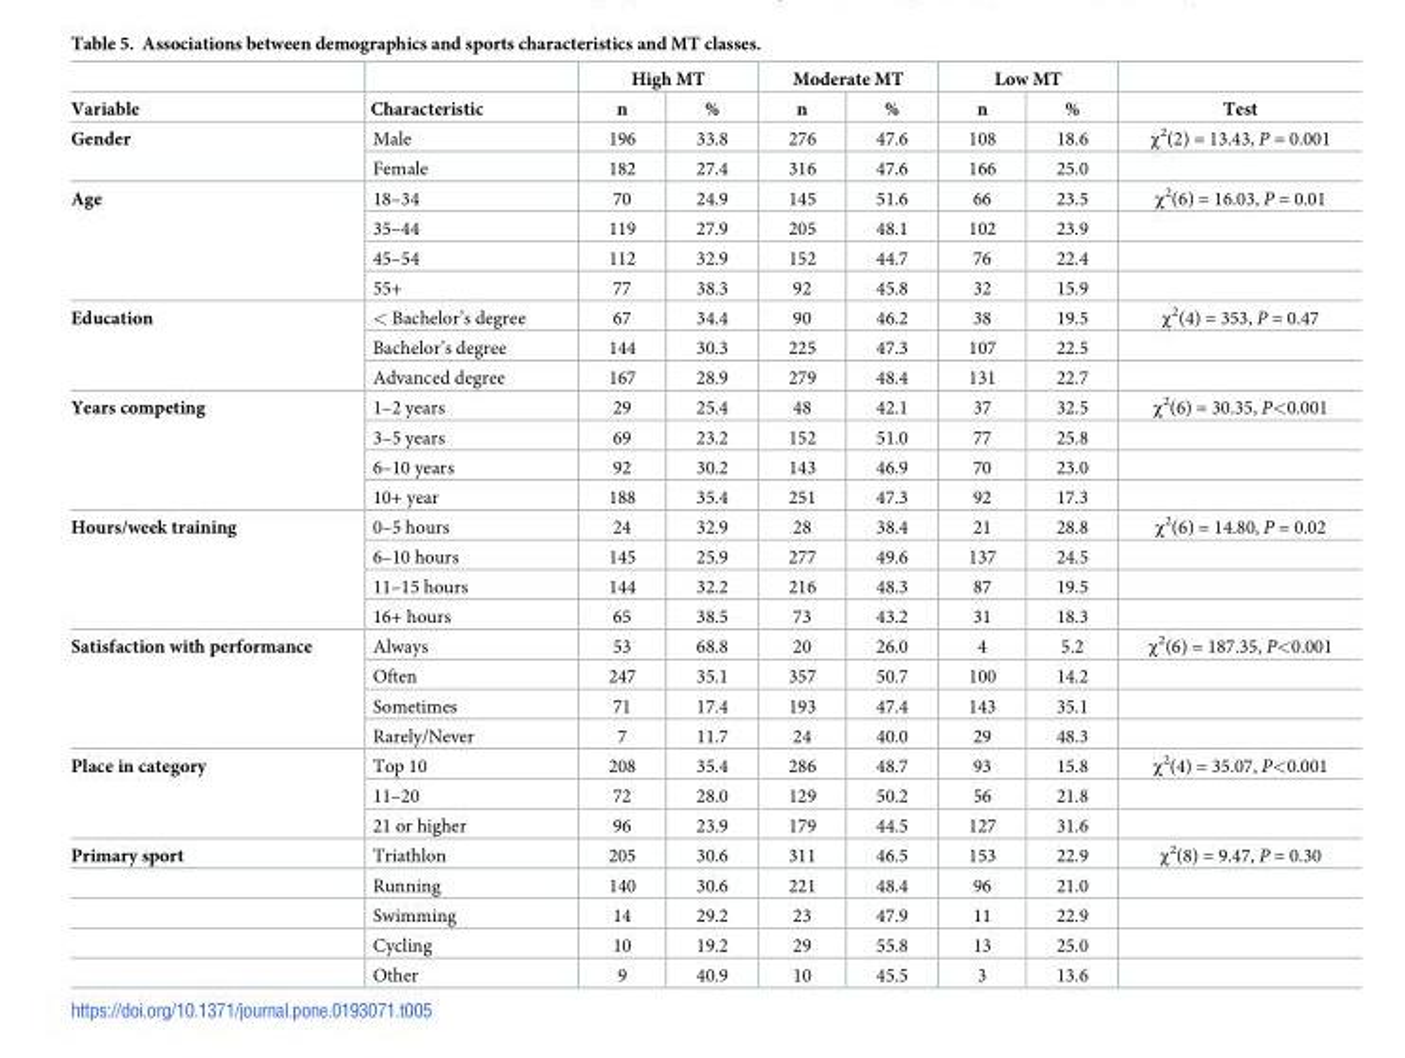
<table><thead><tr><td rowspan="2">Variable</td><td rowspan="2">Characteristic</td><td colspan="2">High MT</td><td colspan="2">Moderate MT</td><td colspan="2">Low MT</td><td rowspan="2">Test</td></tr><tr><td>n</td><td>%</td><td>n</td><td>%</td><td>n</td><td>%</td></tr></thead><tbody><tr><td rowspan="2">Gender</td><td>Male</td><td>196</td><td>33.8</td><td>276</td><td>47.6</td><td>108</td><td>18.6</td><td>χ<sup>2</sup>(2) = 13.43, P = 0.001</td></tr><tr><td>Female</td><td>182</td><td>27.4</td><td>316</td><td>47.6</td><td>166</td><td>25.0</td><td></td></tr><tr><td rowspan="4">Age</td><td>18–34</td><td>70</td><td>24.9</td><td>145</td><td>51.6</td><td>66</td><td>23.5</td><td>χ<sup>2</sup>(6) = 16.03, P = 0.01</td></tr><tr><td>35–44</td><td>119</td><td>27.9</td><td>205</td><td>48.1</td><td>102</td><td>23.9</td><td></td></tr><tr><td>45–54</td><td>112</td><td>32.9</td><td>152</td><td>44.7</td><td>76</td><td>22.4</td><td></td></tr><tr><td>55+</td><td>77</td><td>38.3</td><td>92</td><td>45.8</td><td>32</td><td>15.9</td><td></td></tr><tr><td rowspan="3">Education</td><td>&lt; Bachelor’s degree</td><td>67</td><td>34.4</td><td>90</td><td>46.2</td><td>38</td><td>19.5</td><td>χ<sup>2</sup>(4) = 353, P = 0.47</td></tr><tr><td>Bachelor’s degree</td><td>144</td><td>30.3</td><td>225</td><td>47.3</td><td>107</td><td>22.5</td><td></td></tr><tr><td>Advanced degree</td><td>167</td><td>28.9</td><td>279</td><td>48.4</td><td>131</td><td>22.7</td><td></td></tr><tr><td rowspan="4">Years competing</td><td>1–2 years</td><td>29</td><td>25.4</td><td>48</td><td>42.1</td><td>37</td><td>32.5</td><td>χ<sup>2</sup>(6) = 30.35, P&lt;0.001</td></tr><tr><td>3–5 years</td><td>69</td><td>23.2</td><td>152</td><td>51.0</td><td>77</td><td>25.8</td><td></td></tr><tr><td>6–10 years</td><td>92</td><td>30.2</td><td>143</td><td>46.9</td><td>70</td><td>23.0</td><td></td></tr><tr><td>10+ year</td><td>188</td><td>35.4</td><td>251</td><td>47.3</td><td>92</td><td>17.3</td><td></td></tr><tr><td rowspan="4">Hours/week training</td><td>0–5 hours</td><td>24</td><td>32.9</td><td>28</td><td>38.4</td><td>21</td><td>28.8</td><td>χ<sup>2</sup>(6) = 14.80, P = 0.02</td></tr><tr><td>6–10 hours</td><td>145</td><td>25.9</td><td>277</td><td>49.6</td><td>137</td><td>24.5</td><td></td></tr><tr><td>11–15 hours</td><td>144</td><td>32.2</td><td>216</td><td>48.3</td><td>87</td><td>19.5</td><td></td></tr><tr><td>16+ hours</td><td>65</td><td>38.5</td><td>73</td><td>43.2</td><td>31</td><td>18.3</td><td></td></tr><tr><td rowspan="4">Satisfaction with performance</td><td>Always</td><td>53</td><td>68.8</td><td>20</td><td>26.0</td><td>4</td><td>5.2</td><td>χ<sup>2</sup>(6) = 187.35, P&lt;0.001</td></tr><tr><td>Often</td><td>247</td><td>35.1</td><td>357</td><td>50.7</td><td>100</td><td>14.2</td><td></td></tr><tr><td>Sometimes</td><td>71</td><td>17.4</td><td>193</td><td>47.4</td><td>143</td><td>35.1</td><td></td></tr><tr><td>Rarely/Never</td><td>7</td><td>11.7</td><td>24</td><td>40.0</td><td>29</td><td>48.3</td><td></td></tr><tr><td rowspan="3">Place in category</td><td>Top 10</td><td>208</td><td>35.4</td><td>286</td><td>48.7</td><td>93</td><td>15.8</td><td>χ<sup>2</sup>(4) = 35.07, P&lt;0.001</td></tr><tr><td>11–20</td><td>72</td><td>28.0</td><td>129</td><td>50.2</td><td>56</td><td>21.8</td><td></td></tr><tr><td>21 or higher</td><td>96</td><td>23.9</td><td>179</td><td>44.5</td><td>127</td><td>31.6</td><td></td></tr><tr><td rowspan="5">Primary sport</td><td>Triathlon</td><td>205</td><td>30.6</td><td>311</td><td>46.5</td><td>153</td><td>22.9</td><td>χ<sup>2</sup>(8) = 9.47, P = 0.30</td></tr><tr><td>Running</td><td>140</td><td>30.6</td><td>221</td><td>48.4</td><td>96</td><td>21.0</td><td></td></tr><tr><td>Swimming</td><td>14</td><td>29.2</td><td>23</td><td>47.9</td><td>11</td><td>22.9</td><td></td></tr><tr><td>Cycling</td><td>10</td><td>19.2</td><td>29</td><td>55.8</td><td>13</td><td>25.0</td><td></td></tr><tr><td>Other</td><td>9</td><td>40.9</td><td>10</td><td>45.5</td><td>3</td><td>13.6</td><td></td></tr></tbody></table>